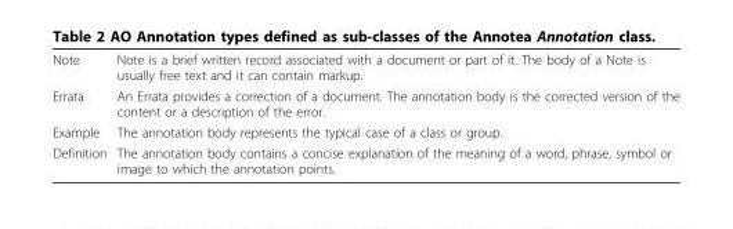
<table><tbody><tr><td>Note</td><td>Note is a brief written record associated with a document or part of it. The body of a Note is usually free text and it can contain markup.</td></tr><tr><td>Errata</td><td>An Errata provides a correction of a document. The annotation body is the corrected version of the content or a description of the error.</td></tr><tr><td>Example</td><td>The annotation body represents the typical case of a class or group.</td></tr><tr><td>Definition</td><td>The annotation body contains a concise explanation of the meaning of a word, phrase, symbol or image to which the annotation points.</td></tr></tbody></table>